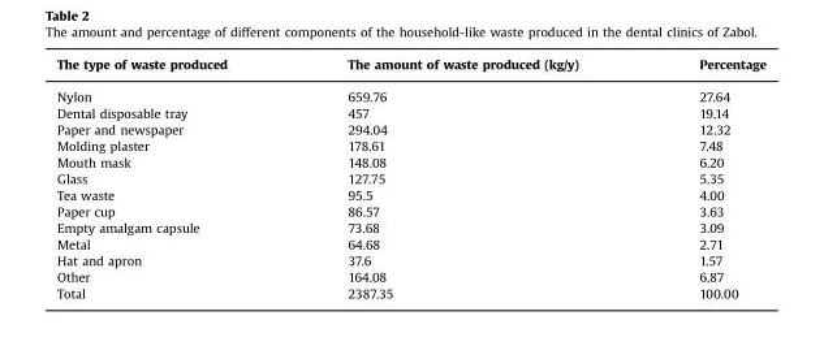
<table><thead><tr><td>The type of waste produced</td><td>The amount of waste produced (kg/y)</td><td>Percentage</td></tr></thead><tbody><tr><td>Nylon</td><td>659.76</td><td>27.64</td></tr><tr><td>Dental disposable tray</td><td>457</td><td>19.14</td></tr><tr><td>Paper and newspaper</td><td>294.04</td><td>12.32</td></tr><tr><td>Molding plaster</td><td>178.61</td><td>7.48</td></tr><tr><td>Mouth mask</td><td>148.08</td><td>6.20</td></tr><tr><td>Glass</td><td>127.75</td><td>5.35</td></tr><tr><td>Tea waste</td><td>95.5</td><td>4.00</td></tr><tr><td>Paper cup</td><td>86.57</td><td>3.63</td></tr><tr><td>Empty amalgam capsule</td><td>73.68</td><td>3.09</td></tr><tr><td>Metal</td><td>64.68</td><td>2.71</td></tr><tr><td>Hat and apron</td><td>37.6</td><td>1.57</td></tr><tr><td>Other</td><td>164.08</td><td>6.87</td></tr><tr><td>Total</td><td>2387.35</td><td>100.00</td></tr></tbody></table>